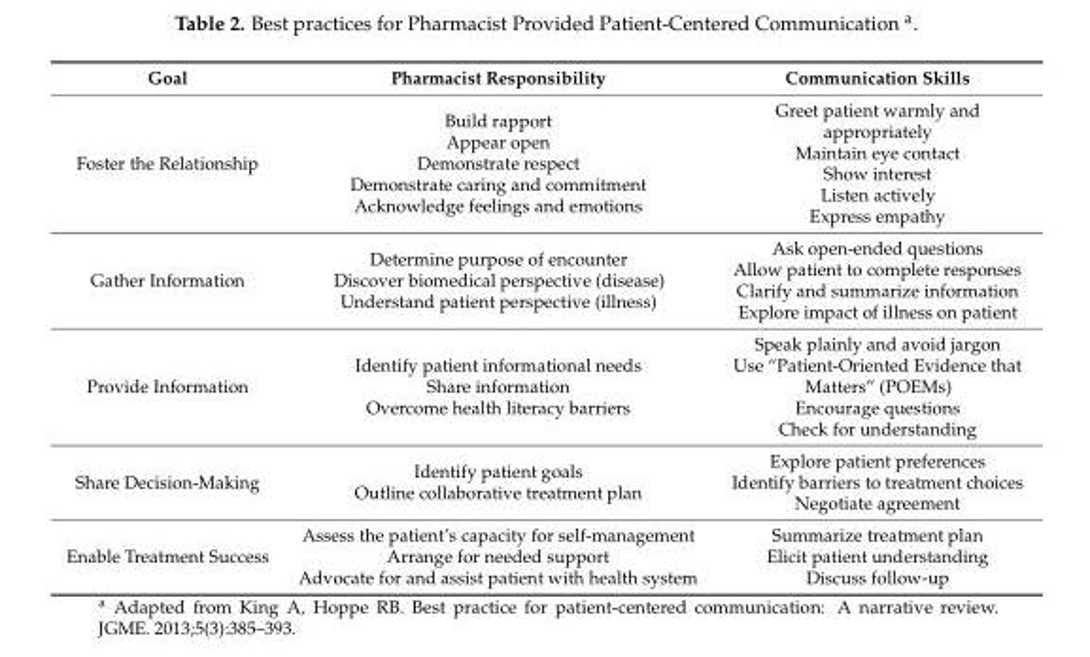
<table><thead><tr><td>Goal</td><td>Pharmacist Responsibility</td><td>Communication Skills</td></tr></thead><tbody><tr><td>Foster the Relationship</td><td>Build rapport Appear open Demonstrate respect Demonstrate caring and commitment Acknowledge feelings and emotions</td><td>Greet patient warmly and appropriately Maintain eye contact Show interest Listen actively Express empathy</td></tr><tr><td>Gather Information</td><td>Determine purpose of encounter Discover biomedical perspective (disease) Understand patient perspective (illness)</td><td>Ask open-ended questions Allow patient to complete responses Clarify and summarize information Explore impact of illness on patient</td></tr><tr><td>Provide Information</td><td>Identify patient informational needs Share information Overcome health literacy barriers</td><td>Speak plainly and avoid jargon Use “Patient-Oriented Evidence that Matters” (POEMs) Encourage questions Check for understanding</td></tr><tr><td>Share Decision-Making</td><td>Identify patient goals Outline collaborative treatment plan</td><td>Explore patient preferences Identify barriers to treatment choices Negotiate agreement</td></tr><tr><td>Enable Treatment Success</td><td>Assess the patient’s capacity for self-management Arrange for needed support Advocate for and assist patient with health system</td><td>Summarize treatment plan Elicit patient understanding Discuss follow-up</td></tr></tbody></table>